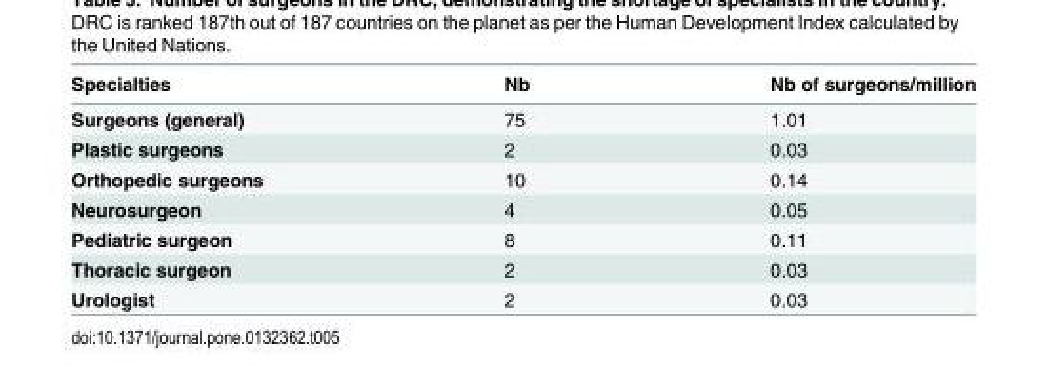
<table><thead><tr><td>Specialties</td><td>Nb</td><td>Nb of surgeons/million</td></tr></thead><tbody><tr><td>Surgeons (general)</td><td>75</td><td>1.01</td></tr><tr><td>Plastic surgeons</td><td>2</td><td>0.03</td></tr><tr><td>Orthopedic surgeons</td><td>10</td><td>0.14</td></tr><tr><td>Neurosurgeon</td><td>4</td><td>0.05</td></tr><tr><td>Pediatric surgeon</td><td>8</td><td>0.11</td></tr><tr><td>Thoracic surgeon</td><td>2</td><td>0.03</td></tr><tr><td>Urologist</td><td>2</td><td>0.03</td></tr></tbody></table>